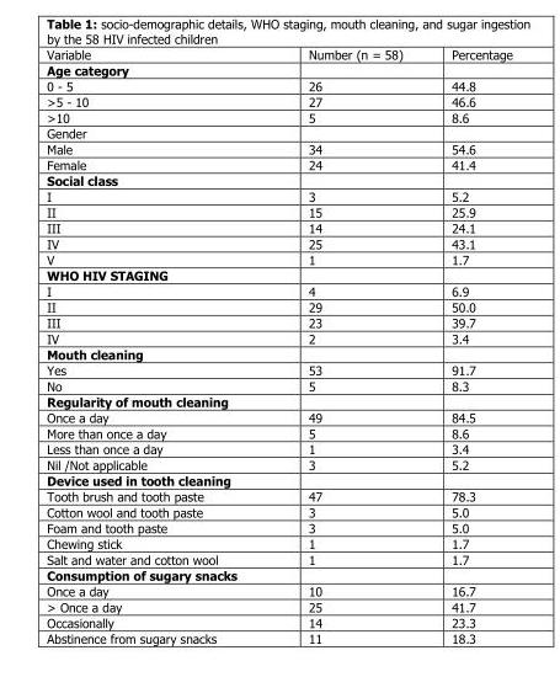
<table><thead><tr><td>Variable</td><td>Number (n = 58)</td><td>Percentage</td></tr></thead><tbody><tr><td colspan="3">Age category</td></tr><tr><td>0 - 5</td><td>26</td><td>44.8</td></tr><tr><td>&gt;5 - 10</td><td>27</td><td>46.6</td></tr><tr><td>&gt;10</td><td>5</td><td>8.6</td></tr><tr><td colspan="3">Gender</td></tr><tr><td>Male</td><td>34</td><td>54.6</td></tr><tr><td>Female</td><td>24</td><td>41.4</td></tr><tr><td colspan="3">Social class</td></tr><tr><td>I</td><td>3</td><td>5.2</td></tr><tr><td>II</td><td>15</td><td>25.9</td></tr><tr><td>III</td><td>14</td><td>24.1</td></tr><tr><td>IV</td><td>25</td><td>43.1</td></tr><tr><td>V</td><td>1</td><td>1.7</td></tr><tr><td colspan="3">WHO HIV STAGING</td></tr><tr><td>I</td><td>4</td><td>6.9</td></tr><tr><td>II</td><td>29</td><td>50.0</td></tr><tr><td>III</td><td>23</td><td>39.7</td></tr><tr><td>IV</td><td>2</td><td>3.4</td></tr><tr><td colspan="3">Mouth cleaning</td></tr><tr><td>Yes</td><td>53</td><td>91.7</td></tr><tr><td>No</td><td>5</td><td>8.3</td></tr><tr><td colspan="3">Regularity of mouth cleaning</td></tr><tr><td>Once a day</td><td>49</td><td>84.5</td></tr><tr><td>More than once a day</td><td>5</td><td>8.6</td></tr><tr><td>Less than once a day</td><td>1</td><td>3.4</td></tr><tr><td>Nil /Not applicable</td><td>3</td><td>5.2</td></tr><tr><td colspan="3">Device used in tooth cleaning</td></tr><tr><td>Tooth brush and tooth paste</td><td>47</td><td>78.3</td></tr><tr><td>Cotton wool and tooth paste</td><td>3</td><td>5.0</td></tr><tr><td>Foam and tooth paste</td><td>3</td><td>5.0</td></tr><tr><td>Chewing stick</td><td>1</td><td>1.7</td></tr><tr><td>Salt and water and cotton wool</td><td>1</td><td>1.7</td></tr><tr><td colspan="3">Consumption of sugary snacks</td></tr><tr><td>Once a day</td><td>10</td><td>16.7</td></tr><tr><td>&gt; Once a day</td><td>25</td><td>41.7</td></tr><tr><td>Occasionally</td><td>14</td><td>23.3</td></tr><tr><td>Abstinence from sugary snacks</td><td>11</td><td>18.3</td></tr></tbody></table>